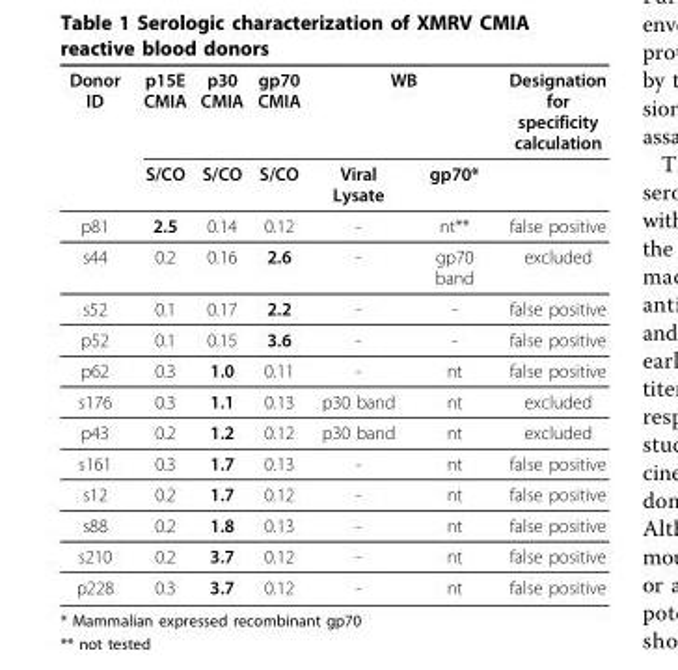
<table><thead><tr><td rowspan="2">Donor ID</td><td rowspan="2">p15E CMIA S/CO</td><td rowspan="2">p30 CMIA S/CO</td><td rowspan="2">gp70 CMIA S/CO</td><td colspan="2">WB</td><td rowspan="2">Designation for specificity calculation</td></tr><tr><td>Viral Lysate</td><td>gp70*</td></tr></thead><tbody><tr><td>p81</td><td>2.5</td><td>0.14</td><td>0.12</td><td>-</td><td>nt**</td><td>false positive</td></tr><tr><td>s44</td><td>0.2</td><td>0.16</td><td>2.6</td><td>-</td><td>gp70 band</td><td>excluded</td></tr><tr><td>s52</td><td>0.1</td><td>0.17</td><td>2.2</td><td>-</td><td>-</td><td>false positive</td></tr><tr><td>p52</td><td>0.1</td><td>0.15</td><td>3.6</td><td>-</td><td>-</td><td>false positive</td></tr><tr><td>p62</td><td>0.3</td><td>1.0</td><td>0.11</td><td>-</td><td>nt</td><td>false positive</td></tr><tr><td>s176</td><td>0.3</td><td>1.1</td><td>0.13</td><td>p30 band</td><td>nt</td><td>excluded</td></tr><tr><td>p43</td><td>0.2</td><td>1.2</td><td>0.12</td><td>p30 band</td><td>nt</td><td>excluded</td></tr><tr><td>s161</td><td>0.3</td><td>1.7</td><td>0.13</td><td>-</td><td>nt</td><td>false positive</td></tr><tr><td>s12</td><td>0.2</td><td>1.7</td><td>0.12</td><td>-</td><td>nt</td><td>false positive</td></tr><tr><td>s88</td><td>0.2</td><td>1.8</td><td>0.13</td><td>-</td><td>nt</td><td>false positive</td></tr><tr><td>s210</td><td>0.2</td><td>3.7</td><td>0.12</td><td>-</td><td>nt</td><td>false positive</td></tr><tr><td>p228</td><td>0.3</td><td>3.7</td><td>0.12</td><td>-</td><td>nt</td><td>false positive</td></tr></tbody></table>